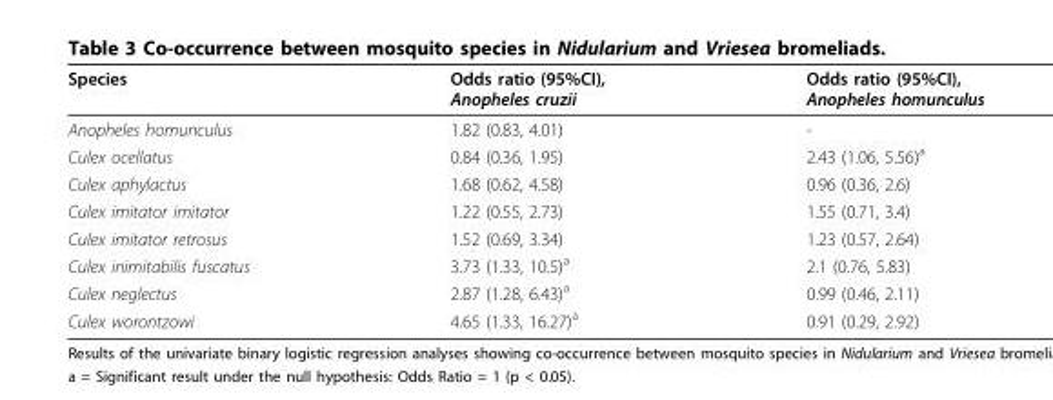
<table><thead><tr><td>Species</td><td>Odds ratio (95%CI), Anopheles cruzii</td><td>Odds ratio (95%CI), Anopheles homunculus</td></tr></thead><tbody><tr><td>Anopheles homunculus</td><td>1.82 (0.83, 4.01)</td><td>-</td></tr><tr><td>Culex ocellatus</td><td>0.84 (0.36, 1.95)</td><td>2.43 (1.06, 5.56)<sup>a</sup></td></tr><tr><td>Culex aphylactus</td><td>1.68 (0.62, 4.58)</td><td>0.96 (0.36, 2.6)</td></tr><tr><td>Culex imitator imitator</td><td>1.22 (0.55, 2.73)</td><td>1.55 (0.71, 3.4)</td></tr><tr><td>Culex imitator retrosus</td><td>1.52 (0.69, 3.34)</td><td>1.23 (0.57, 2.64)</td></tr><tr><td>Culex inimitabilis fuscatus</td><td>3.73 (1.33, 10.5)<sup>a</sup></td><td>2.1 (0.76, 5.83)</td></tr><tr><td>Culex neglectus</td><td>2.87 (1.28, 6.43)<sup>a</sup></td><td>0.99 (0.46, 2.11)</td></tr><tr><td>Culex worontzowi</td><td>4.65 (1.33, 16.27)<sup>a</sup></td><td>0.91 (0.29, 2.92)</td></tr></tbody></table>